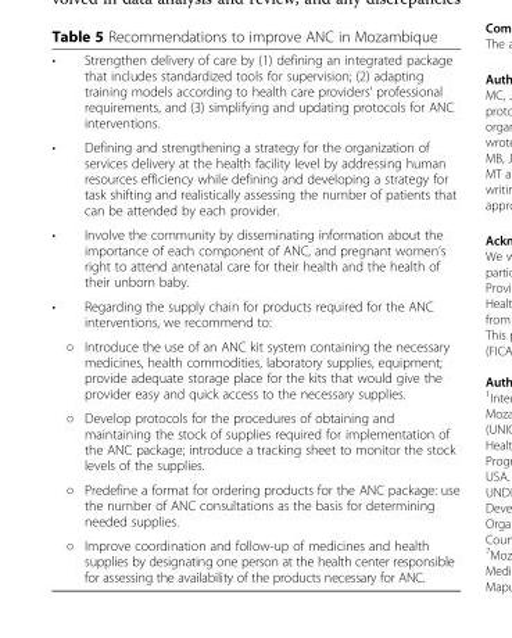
<table><tbody><tr><td>•</td><td>Strengthen delivery of care by (1) defining an integrated package that includes standardized tools for supervision; (2) adapting training models according to health care providers’ professional requirements, and (3) simplifying and updating protocols for ANC interventions.</td></tr><tr><td>•</td><td>Defining and strengthening a strategy for the organization of services delivery at the health facility level by addressing human resources efficiency while defining and developing a strategy for task shifting and realistically assessing the number of patients that can be attended by each provider.</td></tr><tr><td>•</td><td>Involve the community by disseminating information about the importance of each component of ANC, and pregnant women’s right to attend antenatal care for their health and the health of their unborn baby.</td></tr><tr><td>•</td><td>Regarding the supply chain for products required for the ANC interventions, we recommend to:</td></tr><tr><td>○</td><td>Introduce the use of an ANC kit system containing the necessary medicines, health commodities, laboratory supplies, equipment; provide adequate storage place for the kits that would give the provider easy and quick access to the necessary supplies.</td></tr><tr><td>○</td><td>Develop protocols for the procedures of obtaining and maintaining the stock of supplies required for implementation of the ANC package; introduce a tracking sheet to monitor the stock levels of the supplies.</td></tr><tr><td>○</td><td>Predefine a format for ordering products for the ANC package: use the number of ANC consultations as the basis for determining needed supplies.</td></tr><tr><td>○</td><td>Improve coordination and follow-up of medicines and health supplies by designating one person at the health center responsible for assessing the availability of the products necessary for ANC.</td></tr></tbody></table>